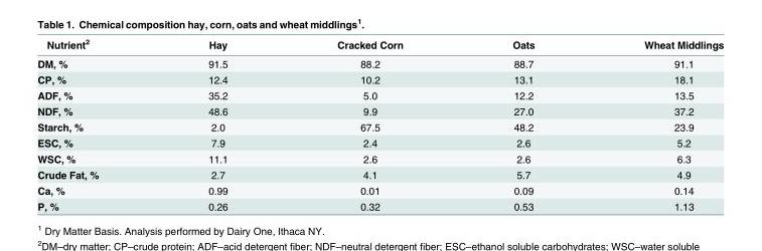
<table><thead><tr><td>Nutrient<sup>2</sup></td><td>Hay</td><td>Cracked Corn</td><td>Oats</td><td>Wheat Middlings</td></tr></thead><tbody><tr><td>DM, %</td><td>91.5</td><td>88.2</td><td>88.7</td><td>91.1</td></tr><tr><td>CP, %</td><td>12.4</td><td>10.2</td><td>13.1</td><td>18.1</td></tr><tr><td>ADF, %</td><td>35.2</td><td>5.0</td><td>12.2</td><td>13.5</td></tr><tr><td>NDF, %</td><td>48.6</td><td>9.9</td><td>27.0</td><td>37.2</td></tr><tr><td>Starch, %</td><td>2.0</td><td>67.5</td><td>48.2</td><td>23.9</td></tr><tr><td>ESC, %</td><td>7.9</td><td>2.4</td><td>2.6</td><td>5.2</td></tr><tr><td>WSC, %</td><td>11.1</td><td>2.6</td><td>2.6</td><td>6.3</td></tr><tr><td>Crude Fat, %</td><td>2.7</td><td>4.1</td><td>5.7</td><td>4.9</td></tr><tr><td>Ca, %</td><td>0.99</td><td>0.01</td><td>0.09</td><td>0.14</td></tr><tr><td>P, %</td><td>0.26</td><td>0.32</td><td>0.53</td><td>1.13</td></tr></tbody></table>